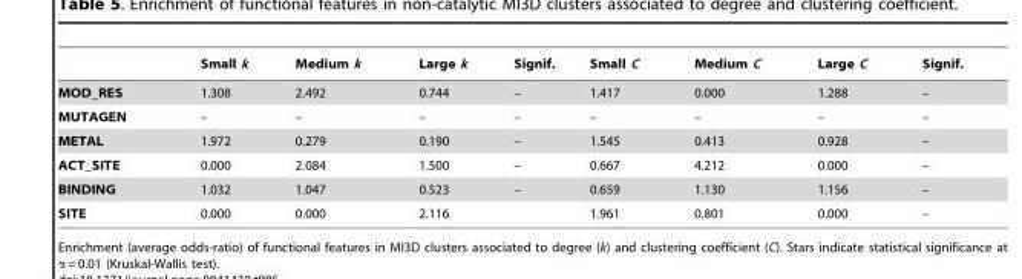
<table><thead><tr><td></td><td>Small k</td><td>Medium k</td><td>Large k</td><td>Signif.</td><td>Small C</td><td>Medium C</td><td>Large C</td><td>Signif.</td></tr></thead><tbody><tr><td>MOD_RES</td><td>1.308</td><td>2.492</td><td>0.744</td><td>–</td><td>1.417</td><td>0.000</td><td>1.288</td><td>–</td></tr><tr><td>MUTAGEN</td><td>–</td><td>–</td><td>–</td><td>–</td><td>–</td><td>–</td><td>–</td><td>–</td></tr><tr><td>METAL</td><td>1.972</td><td>0.279</td><td>0.190</td><td>–</td><td>1.545</td><td>0.413</td><td>0.928</td><td>–</td></tr><tr><td>ACT_SITE</td><td>0.000</td><td>2.084</td><td>1.500</td><td>–</td><td>0.667</td><td>4.212</td><td>0.000</td><td>–</td></tr><tr><td>BINDING</td><td>1.032</td><td>1.047</td><td>0.523</td><td>–</td><td>0.659</td><td>1.130</td><td>1.156</td><td>–</td></tr><tr><td>SITE</td><td>0.000</td><td>0.000</td><td>2.116</td><td></td><td>1.961</td><td>0.801</td><td>0.000</td><td>–</td></tr></tbody></table>